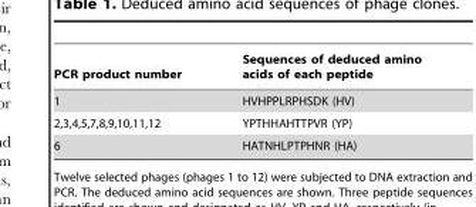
<table><thead><tr><td>PCR product number</td><td>Sequences of deduced amino acids of each peptide</td></tr></thead><tbody><tr><td>1</td><td>HVHPPLRPHSDK (HV)</td></tr><tr><td>2,3,4,5,7,8,9,10,11,12</td><td>YPTHHAHTTPVR (YP)</td></tr><tr><td>6</td><td>HATNHLPTPHNR (HA)</td></tr></tbody></table>